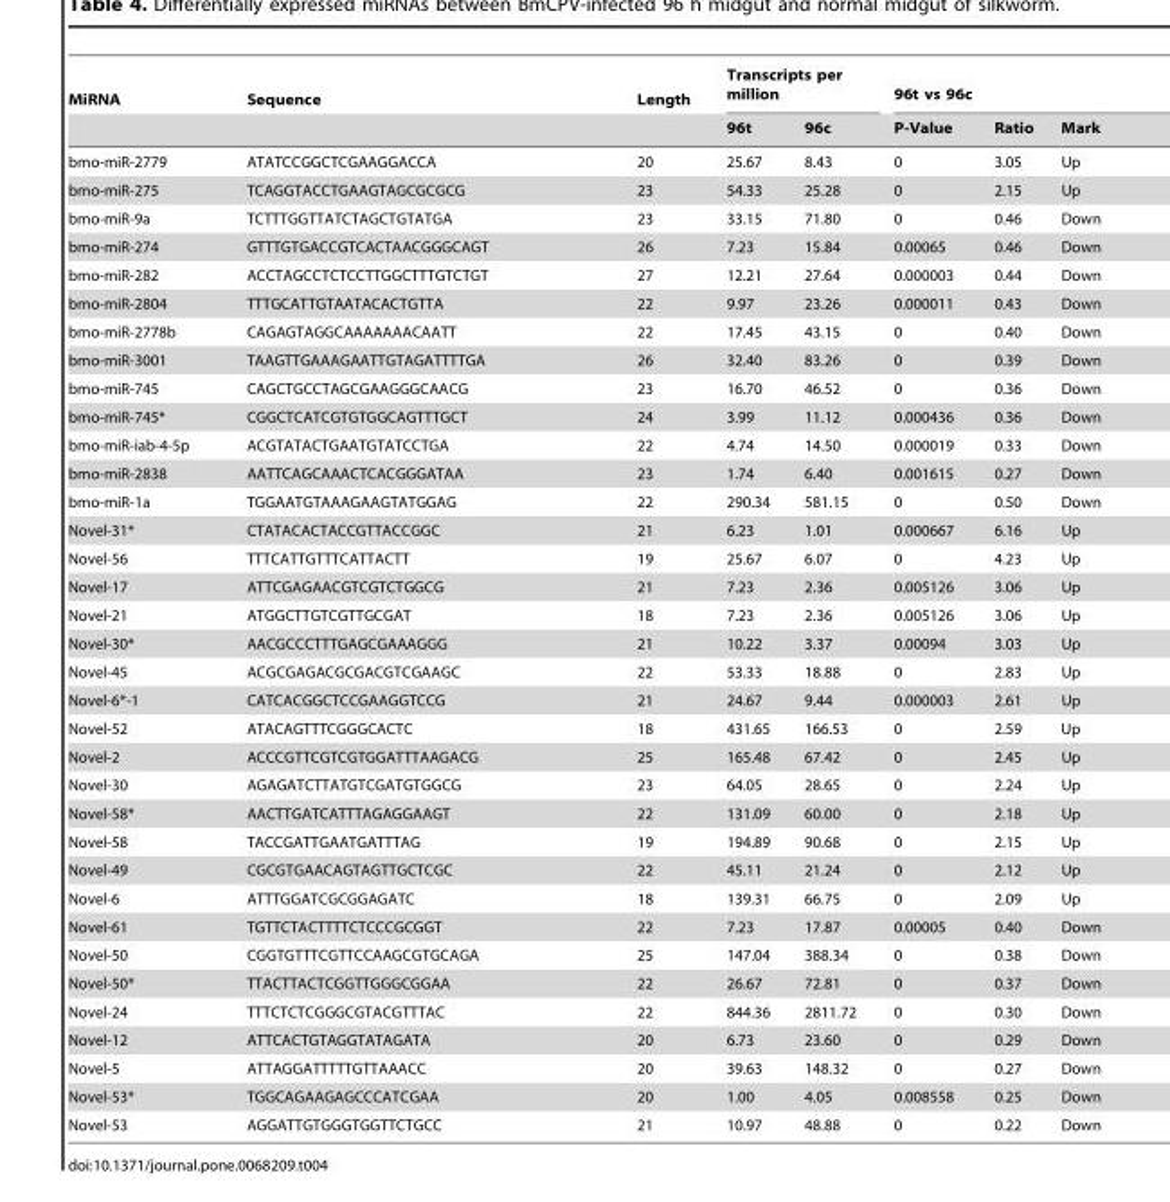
<table><thead><tr><td rowspan="2">MiRNA</td><td rowspan="2">Sequence</td><td rowspan="2">Length</td><td colspan="2">Transcripts per million</td><td colspan="3">96t vs 96c</td></tr><tr><td>96t</td><td>96c</td><td>P-Value</td><td>Ratio</td><td>Mark</td></tr></thead><tbody><tr><td>bmo-miR-2779</td><td>ATATCCGGCTCGAAGGACCA</td><td>20</td><td>25.67</td><td>8.43</td><td>0</td><td>3.05</td><td>Up</td></tr><tr><td>bmo-miR-275</td><td>TCAGGTACCTGAAGTAGCGCGCG</td><td>23</td><td>54.33</td><td>25.28</td><td>0</td><td>2.15</td><td>Up</td></tr><tr><td>bmo-miR-9a</td><td>TCTTTGGTTATCTAGCTGTATGA</td><td>23</td><td>33.15</td><td>71.80</td><td>0</td><td>0.46</td><td>Down</td></tr><tr><td>bmo-miR-274</td><td>GTTTGTGACCGTCACTAACGGGCAGT</td><td>26</td><td>7.23</td><td>15.84</td><td>0.00065</td><td>0.46</td><td>Down</td></tr><tr><td>bmo-miR-282</td><td>ACCTAGCCTCTCCTTGGCTTTGTCTGT</td><td>27</td><td>12.21</td><td>27.64</td><td>0.000003</td><td>0.44</td><td>Down</td></tr><tr><td>bmo-miR-2804</td><td>TTTGCATTGTAATACACTGTTA</td><td>22</td><td>9.97</td><td>23.26</td><td>0.000011</td><td>0.43</td><td>Down</td></tr><tr><td>bmo-miR-2778b</td><td>CAGAGTAGGCAAAAAAACAATT</td><td>22</td><td>17.45</td><td>43.15</td><td>0</td><td>0.40</td><td>Down</td></tr><tr><td>bmo-miR-3001</td><td>TAAGTTGAAAGAATTGTAGATTTTGA</td><td>26</td><td>32.40</td><td>83.26</td><td>0</td><td>0.39</td><td>Down</td></tr><tr><td>bmo-miR-745</td><td>CAGCTGCCTAGCGAAGGGCAACG</td><td>23</td><td>16.70</td><td>46.52</td><td>0</td><td>0.36</td><td>Down</td></tr><tr><td>bmo-miR-745*</td><td>CGGCTCATCGTGTGGCAGTTTGCT</td><td>24</td><td>3.99</td><td>11.12</td><td>0.000436</td><td>0.36</td><td>Down</td></tr><tr><td>bmo-miR-iab-4-5p</td><td>ACGTATACTGAATGTATCCTGA</td><td>22</td><td>4.74</td><td>14.50</td><td>0.000019</td><td>0.33</td><td>Down</td></tr><tr><td>bmo-miR-2838</td><td>AATTCAGCAAACTCACGGGATAA</td><td>23</td><td>1.74</td><td>6.40</td><td>0.001615</td><td>0.27</td><td>Down</td></tr><tr><td>bmo-miR-1a</td><td>TGGAATGTAAAGAAGTATGGAG</td><td>22</td><td>290.34</td><td>581.15</td><td>0</td><td>0.50</td><td>Down</td></tr><tr><td>Novel-31*</td><td>CTATACACTACCGTTACCGGC</td><td>21</td><td>6.23</td><td>1.01</td><td>0.000667</td><td>6.16</td><td>Up</td></tr><tr><td>Novel-56</td><td>TTTCATTGTTTCATTACTT</td><td>19</td><td>25.67</td><td>6.07</td><td>0</td><td>4.23</td><td>Up</td></tr><tr><td>Novel-17</td><td>ATTCGAGAACGTCGTCTGGCG</td><td>21</td><td>7.23</td><td>2.36</td><td>0.005126</td><td>3.06</td><td>Up</td></tr><tr><td>Novel-21</td><td>ATGGCTTGTCGTTGCGAT</td><td>18</td><td>7.23</td><td>2.36</td><td>0.005126</td><td>3.06</td><td>Up</td></tr><tr><td>Novel-30*</td><td>AACGCCCTTTGAGCGAAAGGG</td><td>21</td><td>10.22</td><td>3.37</td><td>0.00094</td><td>3.03</td><td>Up</td></tr><tr><td>Novel-45</td><td>ACGCGAGACGCGACGTCGAAGC</td><td>22</td><td>53.33</td><td>18.88</td><td>0</td><td>2.83</td><td>Up</td></tr><tr><td>Novel-6*-1</td><td>CATCACGGCTCCGAAGGTCCG</td><td>21</td><td>24.67</td><td>9.44</td><td>0.000003</td><td>2.61</td><td>Up</td></tr><tr><td>Novel-52</td><td>ATACAGTTTCGGGCACTC</td><td>18</td><td>431.65</td><td>166.53</td><td>0</td><td>2.59</td><td>Up</td></tr><tr><td>Novel-2</td><td>ACCCGTTCGTCGTGGATTTAAGACG</td><td>25</td><td>165.48</td><td>67.42</td><td>0</td><td>2.45</td><td>Up</td></tr><tr><td>Novel-30</td><td>AGAGATCTTATGTCGATGTGGCG</td><td>23</td><td>64.05</td><td>28.65</td><td>0</td><td>2.24</td><td>Up</td></tr><tr><td>Novel-58*</td><td>AACTTGATCATTTAGAGGAAGT</td><td>22</td><td>131.09</td><td>60.00</td><td>0</td><td>2.18</td><td>Up</td></tr><tr><td>Novel-58</td><td>TACCGATTGAATGATTTAG</td><td>19</td><td>194.89</td><td>90.68</td><td>0</td><td>2.15</td><td>Up</td></tr><tr><td>Novel-49</td><td>CGCGTGAACAGTAGTTGCTCGC</td><td>22</td><td>45.11</td><td>21.24</td><td>0</td><td>2.12</td><td>Up</td></tr><tr><td>Novel-6</td><td>ATTTGGATCGCGGAGATC</td><td>18</td><td>139.31</td><td>66.75</td><td>0</td><td>2.09</td><td>Up</td></tr><tr><td>Novel-61</td><td>TGTTCTACTTTTCTCCCGCGGT</td><td>22</td><td>7.23</td><td>17.87</td><td>0.00005</td><td>0.40</td><td>Down</td></tr><tr><td>Novel-50</td><td>CGGTGTTTCGTTCCAAGCGTGCAGA</td><td>25</td><td>147.04</td><td>388.34</td><td>0</td><td>0.38</td><td>Down</td></tr><tr><td>Novel-50*</td><td>TTACTTACTCGGTTGGGCGGAA</td><td>22</td><td>26.67</td><td>72.81</td><td>0</td><td>0.37</td><td>Down</td></tr><tr><td>Novel-24</td><td>TTTCTCTCGGGCGTACGTTTAC</td><td>22</td><td>844.36</td><td>2811.72</td><td>0</td><td>0.30</td><td>Down</td></tr><tr><td>Novel-12</td><td>ATTCACTGTAGGTATAGATA</td><td>20</td><td>6.73</td><td>23.60</td><td>0</td><td>0.29</td><td>Down</td></tr><tr><td>Novel-5</td><td>ATTAGGATTTTTGTTAAACC</td><td>20</td><td>39.63</td><td>148.32</td><td>0</td><td>0.27</td><td>Down</td></tr><tr><td>Novel-53*</td><td>TGGCAGAAGAGCCCATCGAA</td><td>20</td><td>1.00</td><td>4.05</td><td>0.008558</td><td>0.25</td><td>Down</td></tr><tr><td>Novel-53</td><td>AGGATTGTGGGTGGTTCTGCC</td><td>21</td><td>10.97</td><td>48.88</td><td>0</td><td>0.22</td><td>Down</td></tr></tbody></table>